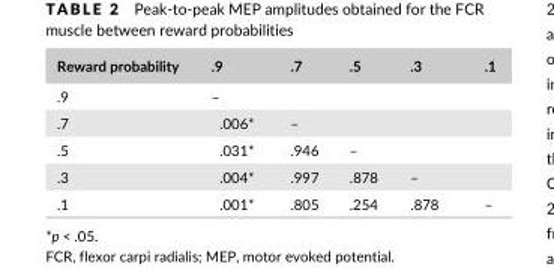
<table><thead><tr><td>Reward probability</td><td>.9</td><td>.7</td><td>.5</td><td>.3</td><td>.1</td></tr></thead><tbody><tr><td>.9</td><td>–</td><td></td><td></td><td></td><td></td></tr><tr><td>.7</td><td>.006*</td><td>–</td><td></td><td></td><td></td></tr><tr><td>.5</td><td>.031*</td><td>.946</td><td>–</td><td></td><td></td></tr><tr><td>.3</td><td>.004*</td><td>.997</td><td>.878</td><td>–</td><td></td></tr><tr><td>.1</td><td>.001*</td><td>.805</td><td>.254</td><td>.878</td><td>–</td></tr></tbody></table>